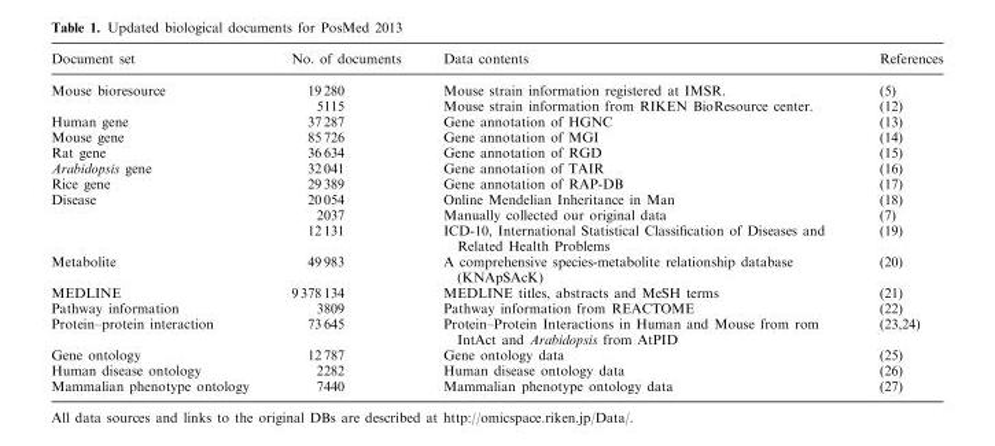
<table><thead><tr><td>Document set</td><td>No. of documents</td><td>Data contents</td><td>References</td></tr></thead><tbody><tr><td rowspan="2">Mouse bioresource</td><td>19 280</td><td>Mouse strain information registered at IMSR.</td><td>(5)</td></tr><tr><td>5115</td><td>Mouse strain information from RIKEN BioResource center.</td><td>(12)</td></tr><tr><td>Human gene</td><td>37 287</td><td>Gene annotation of HGNC</td><td>(13)</td></tr><tr><td>Mouse gene</td><td>85 726</td><td>Gene annotation of MGI</td><td>(14)</td></tr><tr><td>Rat gene</td><td>36 634</td><td>Gene annotation of RGD</td><td>(15)</td></tr><tr><td>Arabidopsis gene</td><td>32 041</td><td>Gene annotation of TAIR</td><td>(16)</td></tr><tr><td>Rice gene</td><td>29 389</td><td>Gene annotation of RAP-DB</td><td>(17)</td></tr><tr><td rowspan="3">Disease</td><td>20 054</td><td>Online Mendelian Inheritance in Man</td><td>(18)</td></tr><tr><td>2037</td><td>Manually collected our original data</td><td>(7)</td></tr><tr><td>12 131</td><td>ICD-10, International Statistical Classification of Diseases and Related Health Problems</td><td>(19)</td></tr><tr><td>Metabolite</td><td>49 983</td><td>A comprehensive species-metabolite relationship database (KNApSAcK)</td><td>(20)</td></tr><tr><td>MEDLINE</td><td>9 378 134</td><td>MEDLINE titles, abstracts and MeSH terms</td><td>(21)</td></tr><tr><td>Pathway information</td><td>3809</td><td>Pathway information from REACTOME</td><td>(22)</td></tr><tr><td>Protein–protein interaction</td><td>73 645</td><td>Protein–Protein Interactions in Human and Mouse from rom IntAct and Arabidopsis from AtPID</td><td>(23,24)</td></tr><tr><td>Gene ontology</td><td>12 787</td><td>Gene ontology data</td><td>(25)</td></tr><tr><td>Human disease ontology</td><td>2282</td><td>Human disease ontology data</td><td>(26)</td></tr><tr><td>Mammalian phenotype ontology</td><td>7440</td><td>Mammalian phenotype ontology data</td><td>(27)</td></tr></tbody></table>